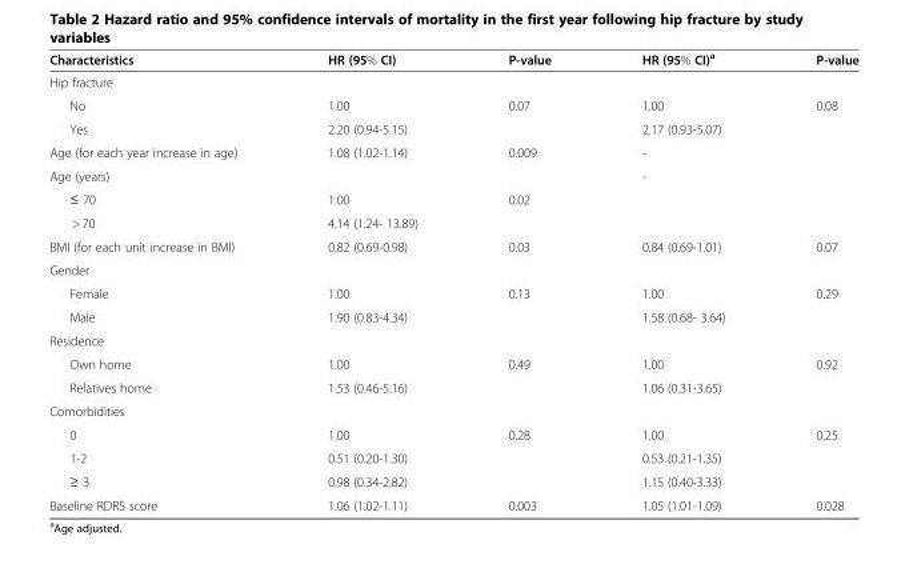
<table><thead><tr><td>Characteristics</td><td>HR (95% CI)</td><td>P-value</td><td>HR (95% CI)<sup>a</sup></td><td>P-value</td></tr></thead><tbody><tr><td colspan="5">Hip fracture</td></tr><tr><td>No</td><td>1.00</td><td>0.07</td><td>1.00</td><td>0.08</td></tr><tr><td>Yes</td><td>2.20 (0.94-5.15)</td><td></td><td>2.17 (0.93-5.07)</td><td></td></tr><tr><td>Age (for each year increase in age)</td><td>1.08 (1.02-1.14)</td><td>0.009</td><td>-</td><td></td></tr><tr><td>Age (years)</td><td></td><td></td><td>-</td><td></td></tr><tr><td>≤ 70</td><td>1.00</td><td>0.02</td><td></td><td></td></tr><tr><td>&gt; 70</td><td>4.14 (1.24- 13.89)</td><td></td><td></td><td></td></tr><tr><td>BMI (for each unit increase in BMI)</td><td>0.82 (0.69-0.98)</td><td>0.03</td><td>0.84 (0.69-1.01)</td><td>0.07</td></tr><tr><td colspan="5">Gender</td></tr><tr><td>Female</td><td>1.00</td><td>0.13</td><td>1.00</td><td>0.29</td></tr><tr><td>Male</td><td>1.90 (0.83-4.34)</td><td></td><td>1.58 (0.68- 3.64)</td><td></td></tr><tr><td colspan="5">Residence</td></tr><tr><td>Own home</td><td>1.00</td><td>0.49</td><td>1.00</td><td>0.92</td></tr><tr><td>Relatives home</td><td>1.53 (0.46-5.16)</td><td></td><td>1.06 (0.31-3.65)</td><td></td></tr><tr><td colspan="5">Comorbidities</td></tr><tr><td>0</td><td>1.00</td><td>0.28</td><td>1.00</td><td>0.25</td></tr><tr><td>1-2</td><td>0.51 (0.20-1.30)</td><td></td><td>0.53 (0.21-1.35)</td><td></td></tr><tr><td>≥ 3</td><td>0.98 (0.34-2.82)</td><td></td><td>1.15 (0.40-3.33)</td><td></td></tr><tr><td>Baseline RDRS score</td><td>1.06 (1.02-1.11)</td><td>0.003</td><td>1.05 (1.01-1.09)</td><td>0.028</td></tr></tbody></table>